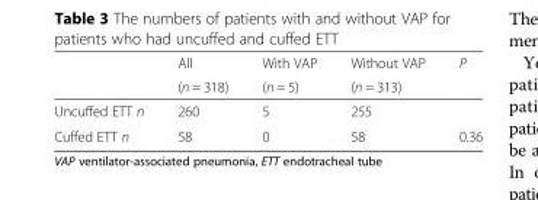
<table><thead><tr><td rowspan="2"></td><td rowspan="2">All (n = 318)</td><td rowspan="2">With VAP (n = 5)</td><td rowspan="2">Without VAP (n = 313)</td><td rowspan="2">P</td></tr><tr></tr></thead><tbody><tr><td>Uncuffed ETT n</td><td>260</td><td>5</td><td>255</td><td></td></tr><tr><td>Cuffed ETT n</td><td>58</td><td>0</td><td>58</td><td>0.36</td></tr></tbody></table>